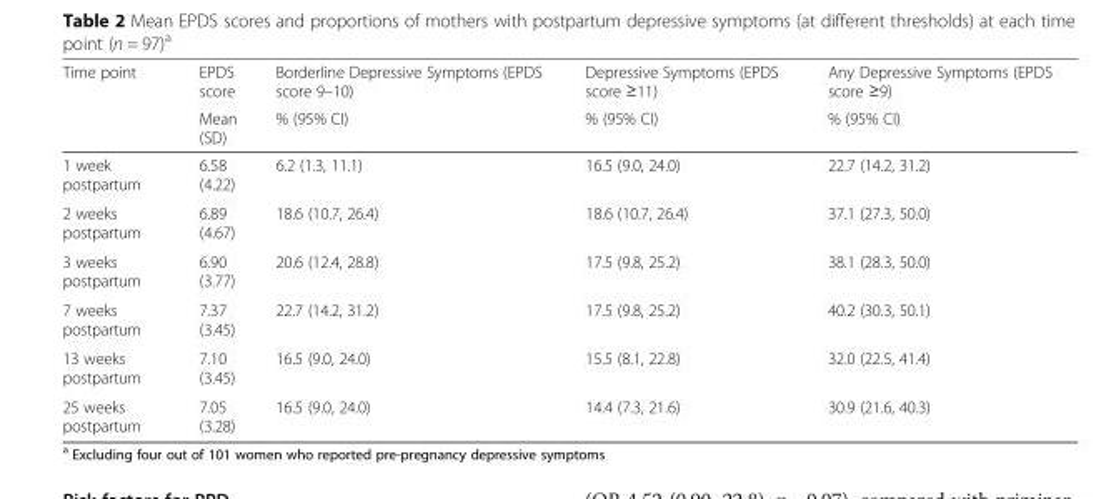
<table><thead><tr><td rowspan="2">Time point</td><td rowspan="2">EPDS score Mean (SD)</td><td rowspan="2">Borderline Depressive Symptoms (EPDS score 9–10) % (95% CI)</td><td rowspan="2">Depressive Symptoms (EPDS score ≥11) % (95% CI)</td><td rowspan="2">Any Depressive Symptoms (EPDS score ≥9) % (95% CI)</td></tr><tr></tr></thead><tbody><tr><td>1 week postpartum</td><td>6.58 (4.22)</td><td>6.2 (1.3, 11.1)</td><td>16.5 (9.0, 24.0)</td><td>22.7 (14.2, 31.2)</td></tr><tr><td>2 weeks postpartum</td><td>6.89 (4.67)</td><td>18.6 (10.7, 26.4)</td><td>18.6 (10.7, 26.4)</td><td>37.1 (27.3, 50.0)</td></tr><tr><td>3 weeks postpartum</td><td>6.90 (3.77)</td><td>20.6 (12.4, 28.8)</td><td>17.5 (9.8, 25.2)</td><td>38.1 (28.3, 50.0)</td></tr><tr><td>7 weeks postpartum</td><td>7.37 (3.45)</td><td>22.7 (14.2, 31.2)</td><td>17.5 (9.8, 25.2)</td><td>40.2 (30.3, 50.1)</td></tr><tr><td>13 weeks postpartum</td><td>7.10 (3.45)</td><td>16.5 (9.0, 24.0)</td><td>15.5 (8.1, 22.8)</td><td>32.0 (22.5, 41.4)</td></tr><tr><td>25 weeks postpartum</td><td>7.05 (3.28)</td><td>16.5 (9.0, 24.0)</td><td>14.4 (7.3, 21.6)</td><td>30.9 (21.6, 40.3)</td></tr></tbody></table>